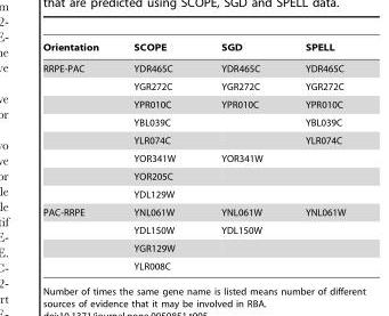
<table><thead><tr><td>Orientation</td><td>SCOPE</td><td>SGD</td><td>SPELL</td></tr></thead><tbody><tr><td rowspan="8">RRPE-PAC</td><td>YDR465C</td><td>YDR465C</td><td>YDR465C</td></tr><tr><td>YGR272C</td><td>YGR272C</td><td>YGR272C</td></tr><tr><td>YPR010C</td><td>YPR010C</td><td>YPR010C</td></tr><tr><td>YBL039C</td><td></td><td>YBL039C</td></tr><tr><td>YLR074C</td><td></td><td>YLR074C</td></tr><tr><td>YOR341W</td><td>YOR341W</td><td></td></tr><tr><td>YOR205C</td><td></td><td></td></tr><tr><td>YDL129W</td><td></td><td></td></tr><tr><td rowspan="4">PAC-RRPE</td><td>YNL061W</td><td>YNL061W</td><td>YNL061W</td></tr><tr><td>YDL150W</td><td>YDL150W</td><td></td></tr><tr><td>YGR129W</td><td></td><td></td></tr><tr><td>YLR008C</td><td></td><td></td></tr></tbody></table>